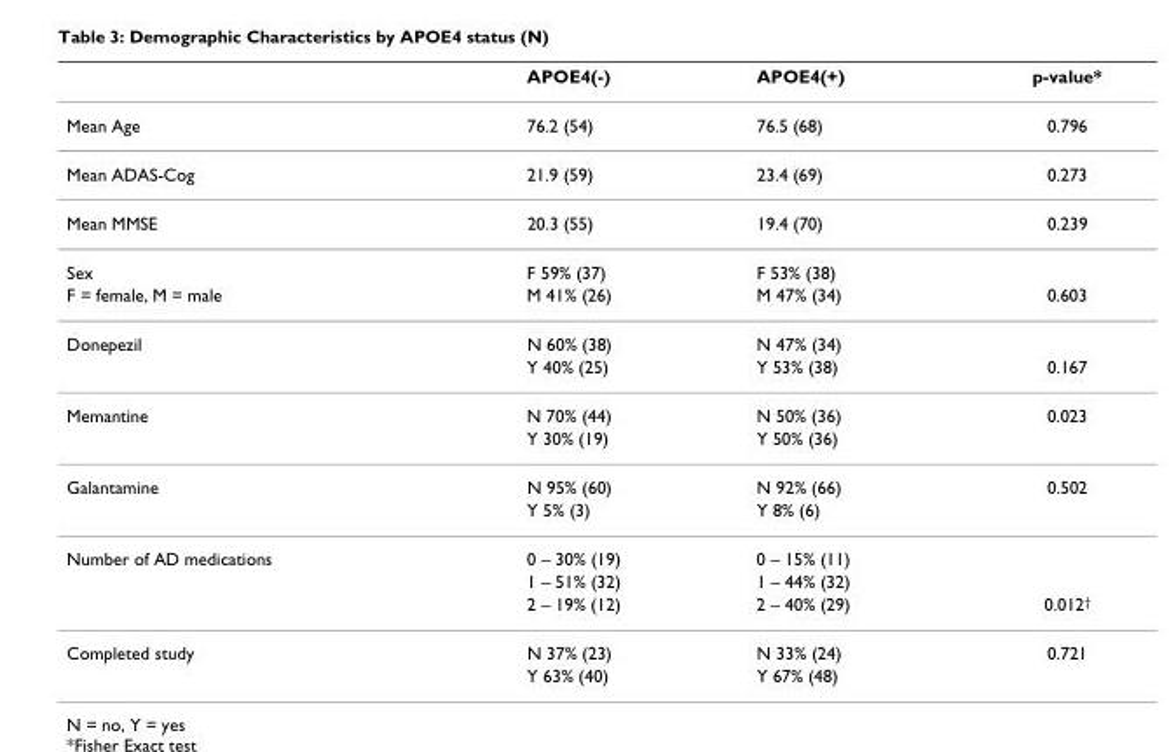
<table><thead><tr><td></td><td>APOE4(-)</td><td>APOE4(+)</td><td>p-value*</td></tr></thead><tbody><tr><td>Mean Age</td><td>76.2 (54)</td><td>76.5 (68)</td><td>0.796</td></tr><tr><td>Mean ADAS-Cog</td><td>21.9 (59)</td><td>23.4 (69)</td><td>0.273</td></tr><tr><td>Mean MMSE</td><td>20.3 (55)</td><td>19.4 (70)</td><td>0.239</td></tr><tr><td>Sex</td><td>F 59% (37)</td><td>F 53% (38)</td><td></td></tr><tr><td>F = female, M = male</td><td>M 41% (26)</td><td>M 47% (34)</td><td>0.603</td></tr><tr><td rowspan="2">Donepezil</td><td>N 60% (38)</td><td>N 47% (34)</td><td></td></tr><tr><td>Y 40% (25)</td><td>Y 53% (38)</td><td>0.167</td></tr><tr><td rowspan="2">Memantine</td><td>N 70% (44)</td><td>N 50% (36)</td><td>0.023</td></tr><tr><td>Y 30% (19)</td><td>Y 50% (36)</td><td></td></tr><tr><td rowspan="2">Galantamine</td><td>N 95% (60)</td><td>N 92% (66)</td><td>0.502</td></tr><tr><td>Y 5% (3)</td><td>Y 8% (6)</td><td></td></tr><tr><td rowspan="3">Number of AD medications</td><td>0 – 30% (19)</td><td>0 – 15% (11)</td><td></td></tr><tr><td>1 – 51% (32)</td><td>1 – 44% (32)</td><td></td></tr><tr><td>2 – 19% (12)</td><td>2 – 40% (29)</td><td>0.012<sup>†</sup></td></tr><tr><td rowspan="2">Completed study</td><td>N 37% (23)</td><td>N 33% (24)</td><td>0.721</td></tr><tr><td>Y 63% (40)</td><td>Y 67% (48)</td><td></td></tr></tbody></table>